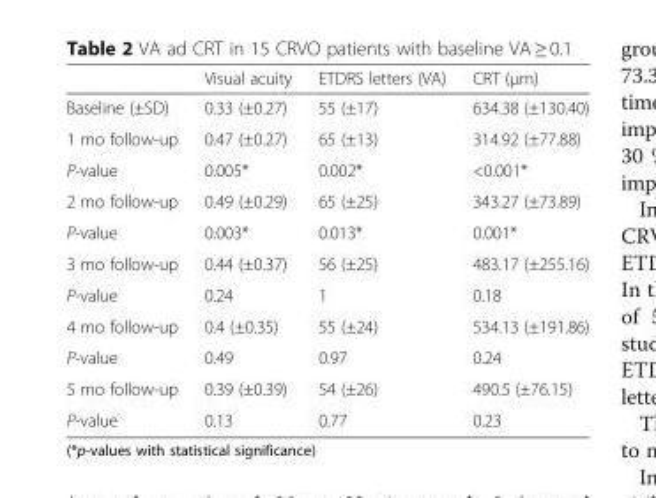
<table><thead><tr><td></td><td>Visual acuity</td><td>ETDRS letters (VA)</td><td>CRT (μm)</td></tr></thead><tbody><tr><td>Baseline (±SD)</td><td>0.33 (±0.27)</td><td>55 (±17)</td><td>634.38 (±130.40)</td></tr><tr><td>1 mo follow-up</td><td>0.47 (±0.27)</td><td>65 (±13)</td><td>314.92 (±77.88)</td></tr><tr><td>P-value</td><td>0.005*</td><td>0.002*</td><td>&lt;0.001*</td></tr><tr><td>2 mo follow-up</td><td>0.49 (±0.29)</td><td>65 (±25)</td><td>343.27 (±73.89)</td></tr><tr><td>P-value</td><td>0.003*</td><td>0.013*</td><td>0.001*</td></tr><tr><td>3 mo follow-up</td><td>0.44 (±0.37)</td><td>56 (±25)</td><td>483.17 (±255.16)</td></tr><tr><td>P-value</td><td>0.24</td><td>1</td><td>0.18</td></tr><tr><td>4 mo follow-up</td><td>0.4 (±0.35)</td><td>55 (±24)</td><td>534.13 (±191.86)</td></tr><tr><td>P-value</td><td>0.49</td><td>0.97</td><td>0.24</td></tr><tr><td>5 mo follow-up</td><td>0.39 (±0.39)</td><td>54 (±26)</td><td>490.5 (±76.15)</td></tr><tr><td>P-value</td><td>0.13</td><td>0.77</td><td>0.23</td></tr></tbody></table>